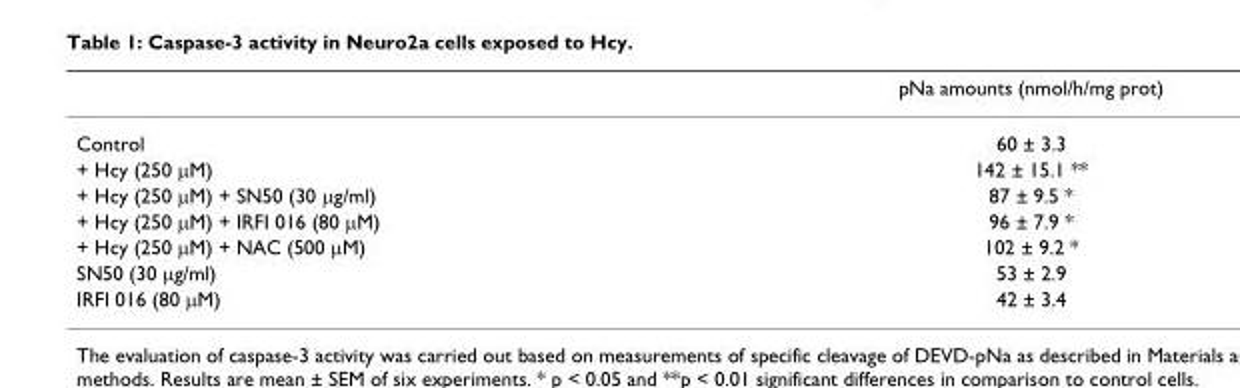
<table><thead><tr><td></td><td>pNa amounts (nmol/h/mg prot)</td></tr></thead><tbody><tr><td>Control</td><td>60 ± 3.3</td></tr><tr><td>+ Hcy (250 μM)</td><td>142 ± 15.1 **</td></tr><tr><td>+ Hcy (250 μM) + SN50 (30 μg/ml)</td><td>87 ± 9.5 *</td></tr><tr><td>+ Hcy (250 μM) + IRFI 016 (80 μM)</td><td>96 ± 7.9 *</td></tr><tr><td>+ Hcy (250 μM) + NAC (500 μM)</td><td>102 ± 9.2 *</td></tr><tr><td>SN50 (30 μg/ml)</td><td>53 ± 2.9</td></tr><tr><td>IRFI 016 (80 μM)</td><td>42 ± 3.4</td></tr></tbody></table>